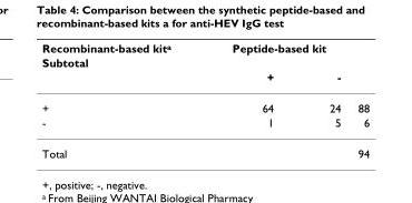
<table><thead><tr><td rowspan="3">Recombinant-based kit<sup>a</sup> Subtotal</td><td colspan="2">Peptide-based kit</td><td rowspan="3"></td></tr><tr><td rowspan="2">+</td><td rowspan="2">-</td></tr><tr></tr></thead><tbody><tr><td>+</td><td>64</td><td>24</td><td>88</td></tr><tr><td>-</td><td>1</td><td>5</td><td>6</td></tr><tr><td>Total</td><td></td><td></td><td>94</td></tr></tbody></table>